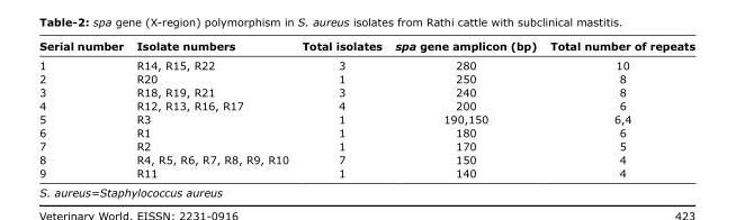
<table><thead><tr><td>Serial number</td><td>Isolate numbers</td><td>Total isolates</td><td>spa gene amplicon (bp)</td><td>Total number of repeats</td></tr></thead><tbody><tr><td>1</td><td>R14, R15, R22</td><td>3</td><td>280</td><td>10</td></tr><tr><td>2</td><td>R20</td><td>1</td><td>250</td><td>8</td></tr><tr><td>3</td><td>R18, R19, R21</td><td>3</td><td>240</td><td>8</td></tr><tr><td>4</td><td>R12, R13, R16, R17</td><td>4</td><td>200</td><td>6</td></tr><tr><td>5</td><td>R3</td><td>1</td><td>190,150</td><td>6,4</td></tr><tr><td>6</td><td>R1</td><td>1</td><td>180</td><td>6</td></tr><tr><td>7</td><td>R2</td><td>1</td><td>170</td><td>5</td></tr><tr><td>8</td><td>R4, R5, R6, R7, R8, R9, R10</td><td>7</td><td>150</td><td>4</td></tr><tr><td>9</td><td>R11</td><td>1</td><td>140</td><td>4</td></tr></tbody></table>